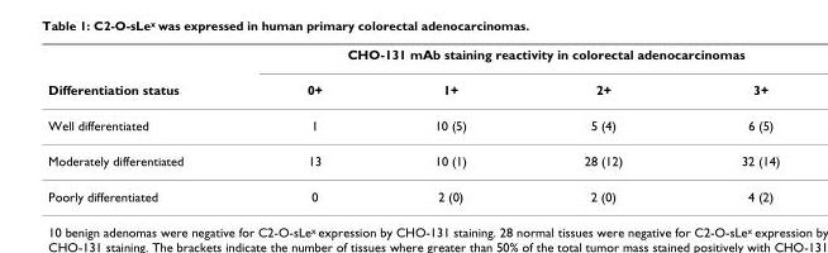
<table><thead><tr><td rowspan="2">Differentiation status</td><td colspan="4">CHO-131 mAb staining reactivity in colorectal adenocarcinomas</td></tr><tr><td>0+</td><td>1+</td><td>2+</td><td>3+</td></tr></thead><tbody><tr><td>Well differentiated</td><td>1</td><td>10 (5)</td><td>5 (4)</td><td>6 (5)</td></tr><tr><td>Moderately differentiated</td><td>13</td><td>10 (1)</td><td>28 (12)</td><td>32 (14)</td></tr><tr><td>Poorly differentiated</td><td>0</td><td>2 (0)</td><td>2 (0)</td><td>4 (2)</td></tr></tbody></table>